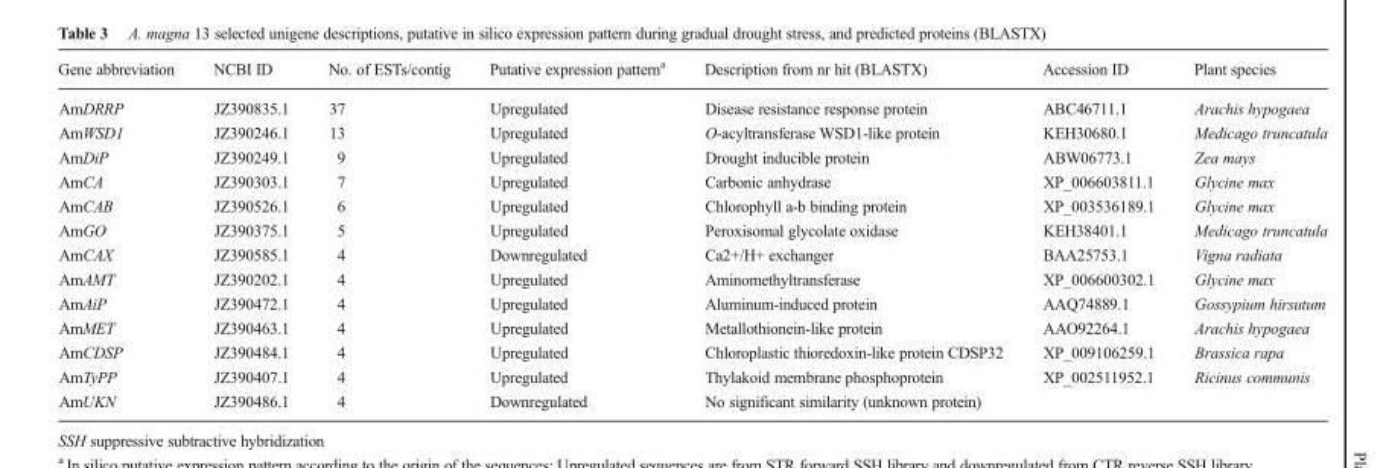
<table><thead><tr><td>Gene abbreviation</td><td>NCBI ID</td><td>No. of ESTs/contig</td><td>Putative expression pattern<sup>a</sup></td><td>Description from nr hit (BLASTX)</td><td>Accession ID</td><td>Plant species</td></tr></thead><tbody><tr><td>AmDRRP</td><td>JZ390835.1</td><td>37</td><td>Upregulated</td><td>Disease resistance response protein</td><td>ABC46711.1</td><td>Arachis hypogaea</td></tr><tr><td>AmWSD1</td><td>JZ390246.1</td><td>13</td><td>Upregulated</td><td>O-acyltransferase WSD1-like protein</td><td>KEH30680.1</td><td>Medicago truncatula</td></tr><tr><td>AmDiP</td><td>JZ390249.1</td><td>9</td><td>Upregulated</td><td>Drought inducible protein</td><td>ABW06773.1</td><td>Zea mays</td></tr><tr><td>AmCA</td><td>JZ390303.1</td><td>7</td><td>Upregulated</td><td>Carbonic anhydrase</td><td>XP_006603811.1</td><td>Glycine max</td></tr><tr><td>AmCAB</td><td>JZ390526.1</td><td>6</td><td>Upregulated</td><td>Chlorophyll a-b binding protein</td><td>XP_003536189.1</td><td>Glycine max</td></tr><tr><td>AmGO</td><td>JZ390375.1</td><td>5</td><td>Upregulated</td><td>Peroxisomal glycolate oxidase</td><td>KEH38401.1</td><td>Medicago truncatula</td></tr><tr><td>AmCAX</td><td>JZ390585.1</td><td>4</td><td>Downregulated</td><td>Ca2+/H+ exchanger</td><td>BAA25753.1</td><td>Vigna radiata</td></tr><tr><td>AmAMT</td><td>JZ390202.1</td><td>4</td><td>Upregulated</td><td>Aminomethyltransferase</td><td>XP_006600302.1</td><td>Glycine max</td></tr><tr><td>AmAiP</td><td>JZ390472.1</td><td>4</td><td>Upregulated</td><td>Aluminum-induced protein</td><td>AAQ74889.1</td><td>Gossypium hirsutum</td></tr><tr><td>AmMET</td><td>JZ390463.1</td><td>4</td><td>Upregulated</td><td>Metallothionein-like protein</td><td>AAO92264.1</td><td>Arachis hypogaea</td></tr><tr><td>AmCDSP</td><td>JZ390484.1</td><td>4</td><td>Upregulated</td><td>Chloroplastic thioredoxin-like protein CDSP32</td><td>XP_009106259.1</td><td>Brassica rapa</td></tr><tr><td>AmTyPP</td><td>JZ390407.1</td><td>4</td><td>Upregulated</td><td>Thylakoid membrane phosphoprotein</td><td>XP_002511952.1</td><td>Ricinus communis</td></tr><tr><td>AmUKN</td><td>JZ390486.1</td><td>4</td><td>Downregulated</td><td>No significant similarity (unknown protein)</td><td></td><td></td></tr></tbody></table>